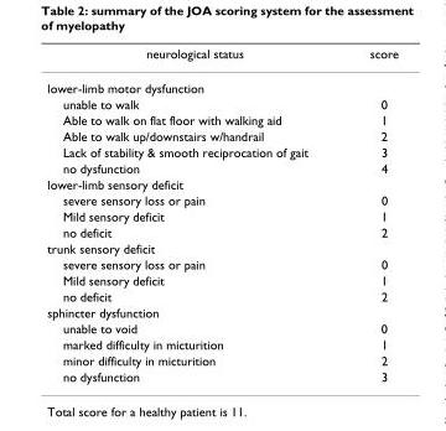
<table><thead><tr><td>neurological status</td><td>score</td></tr></thead><tbody><tr><td colspan="2">lower-limb motor dysfunction</td></tr><tr><td>unable to walk</td><td>0</td></tr><tr><td>Able to walk on flat floor with walking aid</td><td>1</td></tr><tr><td>Able to walk up/downstairs w/handrail</td><td>2</td></tr><tr><td>Lack of stability &amp; smooth reciprocation of gait</td><td>3</td></tr><tr><td>no dysfunction</td><td>4</td></tr><tr><td colspan="2">lower-limb sensory deficit</td></tr><tr><td>severe sensory loss or pain</td><td>0</td></tr><tr><td>Mild sensory deficit</td><td>1</td></tr><tr><td>no deficit</td><td>2</td></tr><tr><td colspan="2">trunk sensory deficit</td></tr><tr><td>severe sensory loss or pain</td><td>0</td></tr><tr><td>Mild sensory deficit</td><td>1</td></tr><tr><td>no deficit</td><td>2</td></tr><tr><td colspan="2">sphincter dysfunction</td></tr><tr><td>unable to void</td><td>0</td></tr><tr><td>marked difficulty in micturition</td><td>1</td></tr><tr><td>minor difficulty in micturition</td><td>2</td></tr><tr><td>no dysfunction</td><td>3</td></tr></tbody></table>